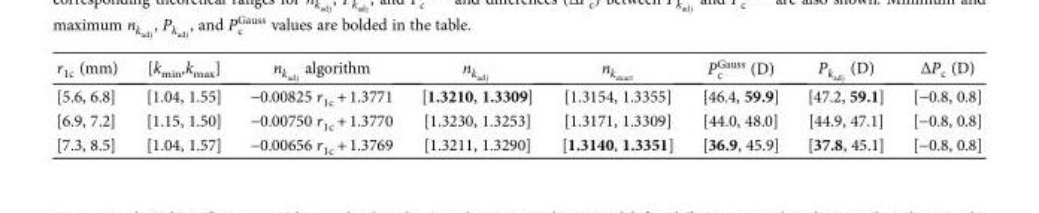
<table><thead><tr><td>r<sub>1c</sub> (mm)</td><td>[k<sub>min</sub>,k<sub>max</sub>]</td><td>nkadj algorithm</td><td>nkadj</td><td>nkexact</td><td>PGauss c (D)</td><td>Pkadj (D)</td><td>ΔP<sub>c</sub> (D)</td></tr></thead><tbody><tr><td>[5.6, 6.8]</td><td>[1.04, 1.55]</td><td>−0.00825 r<sub>1c</sub> + 1.3771</td><td>[1.3210, 1.3309]</td><td>[1.3154, 1.3355]</td><td>[46.4, 59.9]</td><td>[47.2, 59.1]</td><td>[−0.8, 0.8]</td></tr><tr><td>[6.9, 7.2]</td><td>[1.15, 1.50]</td><td>−0.00750 r<sub>1c</sub> + 1.3770</td><td>[1.3230, 1.3253]</td><td>[1.3171, 1.3309]</td><td>[44.0, 48.0]</td><td>[44.9, 47.1]</td><td>[−0.8, 0.8]</td></tr><tr><td>[7.3, 8.5]</td><td>[1.04, 1.57]</td><td>−0.00656 r<sub>1c</sub> + 1.3769</td><td>[1.3211, 1.3290]</td><td>[1.3140, 1.3351]</td><td>[36.9, 45.9]</td><td>[37.8, 45.1]</td><td>[−0.8, 0.8]</td></tr></tbody></table>